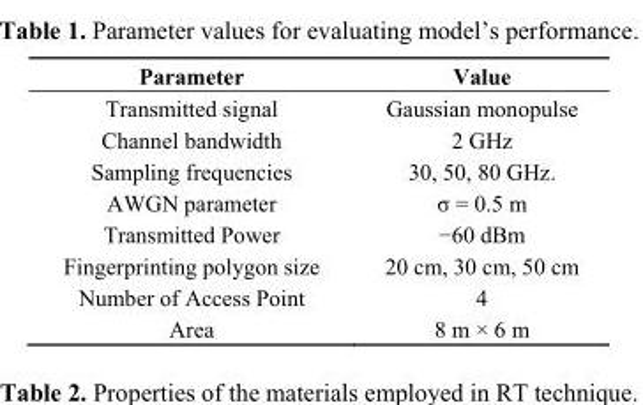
<table><thead><tr><td>Parameter</td><td>Value</td></tr></thead><tbody><tr><td>Transmitted signal</td><td>Gaussian monopulse</td></tr><tr><td>Channel bandwidth</td><td>2 GHz</td></tr><tr><td>Sampling frequencies</td><td>30, 50, 80 GHz.</td></tr><tr><td>AWGN parameter</td><td>σ = 0.5 m</td></tr><tr><td>Transmitted Power</td><td>−60 dBm</td></tr><tr><td>Fingerprinting polygon size</td><td>20 cm, 30 cm, 50 cm</td></tr><tr><td>Number of Access Point</td><td>4</td></tr><tr><td>Area</td><td>8 m × 6 m</td></tr></tbody></table>